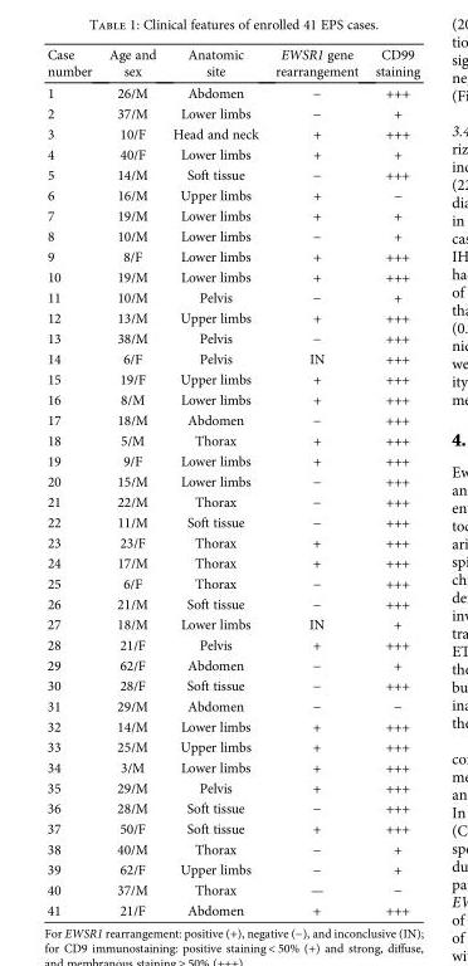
<table><thead><tr><td>Case number</td><td>Age and sex</td><td>Anatomic site</td><td>EWSR1 gene rearrangement</td><td>CD99 staining</td></tr></thead><tbody><tr><td>1</td><td>26/M</td><td>Abdomen</td><td>−</td><td>+++</td></tr><tr><td>2</td><td>37/M</td><td>Lower limbs</td><td>−</td><td>+</td></tr><tr><td>3</td><td>10/F</td><td>Head and neck</td><td>+</td><td>+++</td></tr><tr><td>4</td><td>40/F</td><td>Lower limbs</td><td>+</td><td>+</td></tr><tr><td>5</td><td>14/M</td><td>Soft tissue</td><td>−</td><td>+++</td></tr><tr><td>6</td><td>16/M</td><td>Upper limbs</td><td>+</td><td>−</td></tr><tr><td>7</td><td>19/M</td><td>Lower limbs</td><td>+</td><td>+</td></tr><tr><td>8</td><td>10/M</td><td>Lower limbs</td><td>−</td><td>+</td></tr><tr><td>9</td><td>8/F</td><td>Lower limbs</td><td>+</td><td>+++</td></tr><tr><td>10</td><td>19/M</td><td>Lower limbs</td><td>+</td><td>+++</td></tr><tr><td>11</td><td>10/M</td><td>Pelvis</td><td>−</td><td>+</td></tr><tr><td>12</td><td>13/M</td><td>Upper limbs</td><td>+</td><td>+++</td></tr><tr><td>13</td><td>38/M</td><td>Pelvis</td><td>−</td><td>+++</td></tr><tr><td>14</td><td>6/F</td><td>Pelvis</td><td>IN</td><td>+++</td></tr><tr><td>15</td><td>19/F</td><td>Upper limbs</td><td>+</td><td>+++</td></tr><tr><td>16</td><td>8/M</td><td>Lower limbs</td><td>+</td><td>+++</td></tr><tr><td>17</td><td>18/M</td><td>Abdomen</td><td>−</td><td>+++</td></tr><tr><td>18</td><td>5/M</td><td>Thorax</td><td>+</td><td>+++</td></tr><tr><td>19</td><td>9/F</td><td>Lower limbs</td><td>+</td><td>+++</td></tr><tr><td>20</td><td>15/M</td><td>Lower limbs</td><td>−</td><td>+++</td></tr><tr><td>21</td><td>22/M</td><td>Thorax</td><td>−</td><td>+++</td></tr><tr><td>22</td><td>11/M</td><td>Soft tissue</td><td>−</td><td>+++</td></tr><tr><td>23</td><td>23/F</td><td>Thorax</td><td>+</td><td>+++</td></tr><tr><td>24</td><td>17/M</td><td>Thorax</td><td>+</td><td>+++</td></tr><tr><td>25</td><td>6/F</td><td>Thorax</td><td>−</td><td>+++</td></tr><tr><td>26</td><td>21/M</td><td>Soft tissue</td><td>−</td><td>+++</td></tr><tr><td>27</td><td>18/M</td><td>Lower limbs</td><td>IN</td><td>+</td></tr><tr><td>28</td><td>21/F</td><td>Pelvis</td><td>+</td><td>+++</td></tr><tr><td>29</td><td>62/F</td><td>Abdomen</td><td>−</td><td>+</td></tr><tr><td>30</td><td>28/F</td><td>Soft tissue</td><td>−</td><td>+++</td></tr><tr><td>31</td><td>29/M</td><td>Abdomen</td><td>−</td><td>−</td></tr><tr><td>32</td><td>14/M</td><td>Lower limbs</td><td>+</td><td>+++</td></tr><tr><td>33</td><td>25/M</td><td>Upper limbs</td><td>+</td><td>+++</td></tr><tr><td>34</td><td>3/M</td><td>Lower limbs</td><td>+</td><td>+++</td></tr><tr><td>35</td><td>29/M</td><td>Pelvis</td><td>+</td><td>+++</td></tr><tr><td>36</td><td>28/M</td><td>Soft tissue</td><td>−</td><td>+++</td></tr><tr><td>37</td><td>50/F</td><td>Soft tissue</td><td>+</td><td>+++</td></tr><tr><td>38</td><td>40/M</td><td>Thorax</td><td>−</td><td>+</td></tr><tr><td>39</td><td>62/F</td><td>Upper limbs</td><td>−</td><td>+</td></tr><tr><td>40</td><td>37/M</td><td>Thorax</td><td>—</td><td>−</td></tr><tr><td>41</td><td>21/F</td><td>Abdomen</td><td>+</td><td>+++</td></tr></tbody></table>